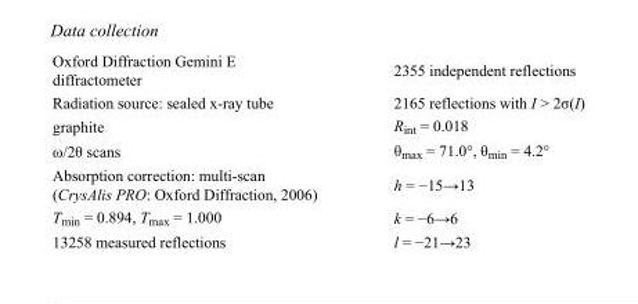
<table><tbody><tr><td>Oxford Diffraction Gemini E diffractometer</td><td>2355 independent reflections</td></tr><tr><td>Radiation source: sealed x-ray tube</td><td>2165 reflections with I &gt; 2σ(I)</td></tr><tr><td>graphite</td><td>R<sub>int</sub> = 0.018</td></tr><tr><td>ω/2θ scans</td><td>θ<sub>max</sub> = 71.0°, θ<sub>min</sub> = 4.2°</td></tr><tr><td>Absorption correction: multi-scan (CrysAlis PRO: Oxford Diffraction, 2006)</td><td>h = −15→13</td></tr><tr><td>T<sub>min</sub> = 0.894, T<sub>max</sub> = 1.000</td><td>k = −6→6</td></tr><tr><td>13258 measured reflections</td><td>l = −21→23</td></tr></tbody></table>